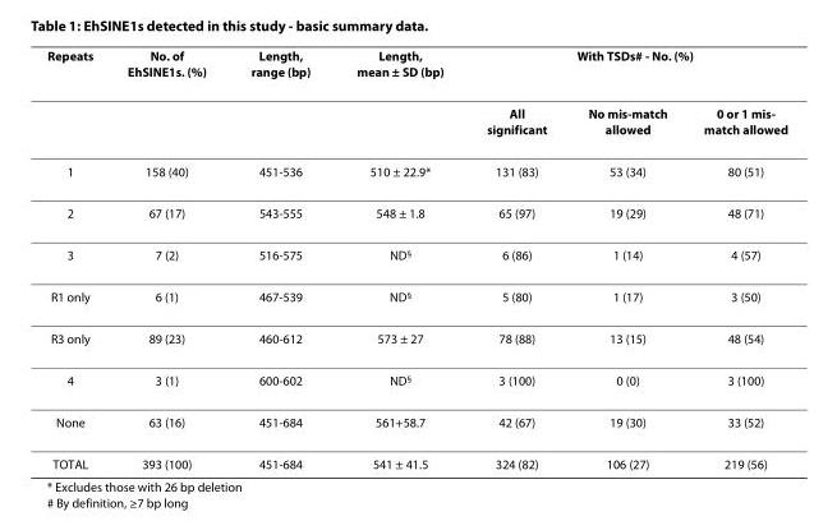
<table><thead><tr><td rowspan="2">Repeats</td><td rowspan="2">No. of EhSINE1s. (%)</td><td rowspan="2">Length, range (bp)</td><td rowspan="2">Length, mean ± SD (bp)</td><td colspan="3">With TSDs# - No. (%)</td></tr><tr><td>All significant</td><td>No mis-match allowed</td><td>0 or 1 mis- match allowed</td></tr></thead><tbody><tr><td>1</td><td>158 (40)</td><td>451-536</td><td>510 ± 22.9*</td><td>131 (83)</td><td>53 (34)</td><td>80 (51)</td></tr><tr><td>2</td><td>67 (17)</td><td>543-555</td><td>548 ± 1.8</td><td>65 (97)</td><td>19 (29)</td><td>48 (71)</td></tr><tr><td>3</td><td>7 (2)</td><td>516-575</td><td>ND<sup>§</sup></td><td>6 (86)</td><td>1 (14)</td><td>4 (57)</td></tr><tr><td>R1 only</td><td>6 (1)</td><td>467-539</td><td>ND<sup>§</sup></td><td>5 (80)</td><td>1 (17)</td><td>3 (50)</td></tr><tr><td>R3 only</td><td>89 (23)</td><td>460-612</td><td>573 ± 27</td><td>78 (88)</td><td>13 (15)</td><td>48 (54)</td></tr><tr><td>4</td><td>3 (1)</td><td>600-602</td><td>ND<sup>§</sup></td><td>3 (100)</td><td>0 (0)</td><td>3 (100)</td></tr><tr><td>None</td><td>63 (16)</td><td>451-684</td><td>561+58.7</td><td>42 (67)</td><td>19 (30)</td><td>33 (52)</td></tr><tr><td>TOTAL</td><td>393 (100)</td><td>451-684</td><td>541 ± 41.5</td><td>324 (82)</td><td>106 (27)</td><td>219 (56)</td></tr></tbody></table>